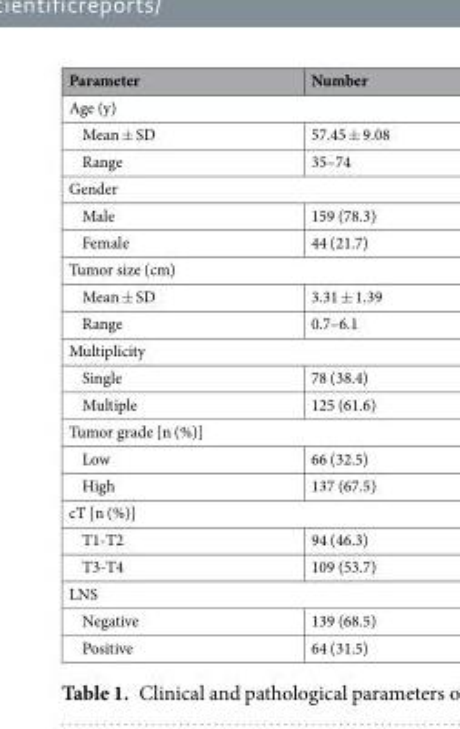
<table><thead><tr><td>Parameter</td><td>Number</td></tr></thead><tbody><tr><td colspan="2">Age (y)</td></tr><tr><td>Mean ± SD</td><td>57.45 ± 9.08</td></tr><tr><td>Range</td><td>35–74</td></tr><tr><td colspan="2">Gender</td></tr><tr><td>Male</td><td>159 (78.3)</td></tr><tr><td>Female</td><td>44 (21.7)</td></tr><tr><td colspan="2">Tumor size (cm)</td></tr><tr><td>Mean ± SD</td><td>3.31 ± 1.39</td></tr><tr><td>Range</td><td>0.7–6.1</td></tr><tr><td colspan="2">Multiplicity</td></tr><tr><td>Single</td><td>78 (38.4)</td></tr><tr><td>Multiple</td><td>125 (61.6)</td></tr><tr><td colspan="2">Tumor grade [n (%)]</td></tr><tr><td>Low</td><td>66 (32.5)</td></tr><tr><td>High</td><td>137 (67.5)</td></tr><tr><td colspan="2">cT [n (%)]</td></tr><tr><td>T1-T2</td><td>94 (46.3)</td></tr><tr><td>T3-T4</td><td>109 (53.7)</td></tr><tr><td colspan="2">LNS</td></tr><tr><td>Negative</td><td>139 (68.5)</td></tr><tr><td>Positive</td><td>64 (31.5)</td></tr></tbody></table>